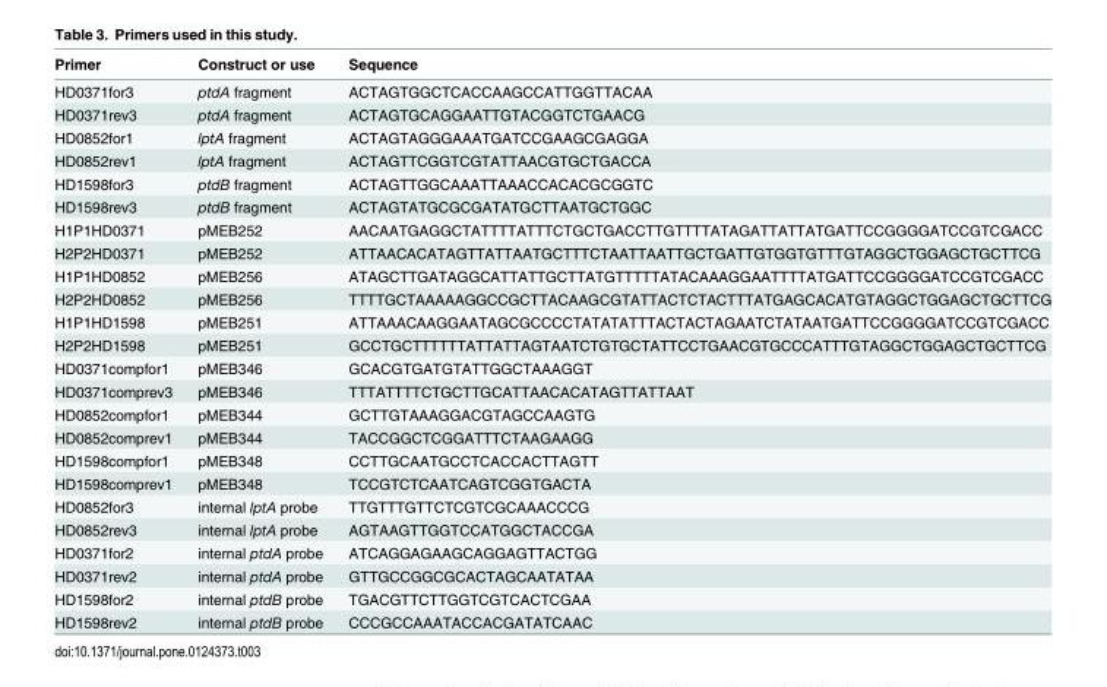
<table><thead><tr><td>Primer</td><td>Construct or use</td><td>Sequence</td></tr></thead><tbody><tr><td>HD0371for3</td><td>ptdA fragment</td><td>ACTAGTGGCTCACCAAGCCATTGGTTACAA</td></tr><tr><td>HD0371rev3</td><td>ptdA fragment</td><td>ACTAGTGCAGGAATTGTACGGTCTGAACG</td></tr><tr><td>HD0852for1</td><td>lptA fragment</td><td>ACTAGTAGGGAAATGATCCGAAGCGAGGA</td></tr><tr><td>HD0852rev1</td><td>lptA fragment</td><td>ACTAGTTCGGTCGTATTAACGTGCTGACCA</td></tr><tr><td>HD1598for3</td><td>ptdB fragment</td><td>ACTAGTTGGCAAATTAAACCACACGCGGTC</td></tr><tr><td>HD1598rev3</td><td>ptdB fragment</td><td>ACTAGTATGCGCGATATGCTTAATGCTGGC</td></tr><tr><td>H1P1HD0371</td><td>pMEB252</td><td>AACAATGAGGCTATTTTATTTCTGCTGACCTTGTTTTATAGATTATTATGATTCCGGGGATCCGTCGACC</td></tr><tr><td>H2P2HD0371</td><td>pMEB252</td><td>ATTAACACATAGTTATTAATGCTTTCTAATTAATTGCTGATTGTGGTGTTTGTAGGCTGGAGCTGCTTCG</td></tr><tr><td>H1P1HD0852</td><td>pMEB256</td><td>ATAGCTTGATAGGCATTATTGCTTATGTTTTTATACAAAGGAATTTTATGATTCCGGGGATCCGTCGACC</td></tr><tr><td>H2P2HD0852</td><td>pMEB256</td><td>TTTTGCTAAAAAGGCCGCTTACAAGCGTATTACTCTACTTTATGAGCACATGTAGGCTGGAGCTGCTTCG</td></tr><tr><td>H1P1HD1598</td><td>pMEB251</td><td>ATTAAACAAGGAATAGCGCCCCTATATATTTACTACTAGAATCTATAATGATTCCGGGGATCCGTCGACC</td></tr><tr><td>H2P2HD1598</td><td>pMEB251</td><td>GCCTGCTTTTTTATTATTAGTAATCTGTGCTATTCCTGAACGTGCCCATTTGTAGGCTGGAGCTGCTTCG</td></tr><tr><td>HD0371compfor1</td><td>pMEB346</td><td>GCACGTGATGTATTGGCTAAAGGT</td></tr><tr><td>HD0371comprev3</td><td>pMEB346</td><td>TTTATTTTCTGCTTGCATTAACACATAGTTATTAAT</td></tr><tr><td>HD0852compfor1</td><td>pMEB344</td><td>GCTTGTAAAGGACGTAGCCAAGTG</td></tr><tr><td>HD0852comprev1</td><td>pMEB344</td><td>TACCGGCTCGGATTTCTAAGAAGG</td></tr><tr><td>HD1598compfor1</td><td>pMEB348</td><td>CCTTGCAATGCCTCACCACTTAGTT</td></tr><tr><td>HD1598comprev1</td><td>pMEB348</td><td>TCCGTCTCAATCAGTCGGTGACTA</td></tr><tr><td>HD0852for3</td><td>internal lptA probe</td><td>TTGTTTGTTCTCGTCGCAAACCCG</td></tr><tr><td>HD0852rev3</td><td>internal lptA probe</td><td>AGTAAGTTGGTCCATGGCTACCGA</td></tr><tr><td>HD0371for2</td><td>internal ptdA probe</td><td>ATCAGGAGAAGCAGGAGTTACTGG</td></tr><tr><td>HD0371rev2</td><td>internal ptdA probe</td><td>GTTGCCGGCGCACTAGCAATATAA</td></tr><tr><td>HD1598for2</td><td>internal ptdB probe</td><td>TGACGTTCTTGGTCGTCACTCGAA</td></tr><tr><td>HD1598rev2</td><td>internal ptdB probe</td><td>CCCGCCAAATACCACGATATCAAC</td></tr></tbody></table>